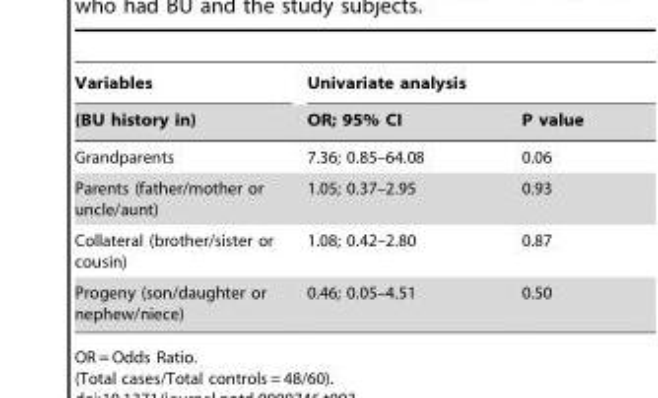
<table><thead><tr><td rowspan="2">Variables (BU history in)</td><td colspan="2">Univariate analysis</td></tr><tr><td>OR; 95% CI</td><td>P value</td></tr></thead><tbody><tr><td>Grandparents</td><td>7.36; 0.85–64.08</td><td>0.06</td></tr><tr><td>Parents (father/mother or uncle/aunt)</td><td>1.05; 0.37–2.95</td><td>0.93</td></tr><tr><td>Collateral (brother/sister or cousin)</td><td>1.08; 0.42–2.80</td><td>0.87</td></tr><tr><td>Progeny (son/daughter or nephew/niece)</td><td>0.46; 0.05–4.51</td><td>0.50</td></tr></tbody></table>